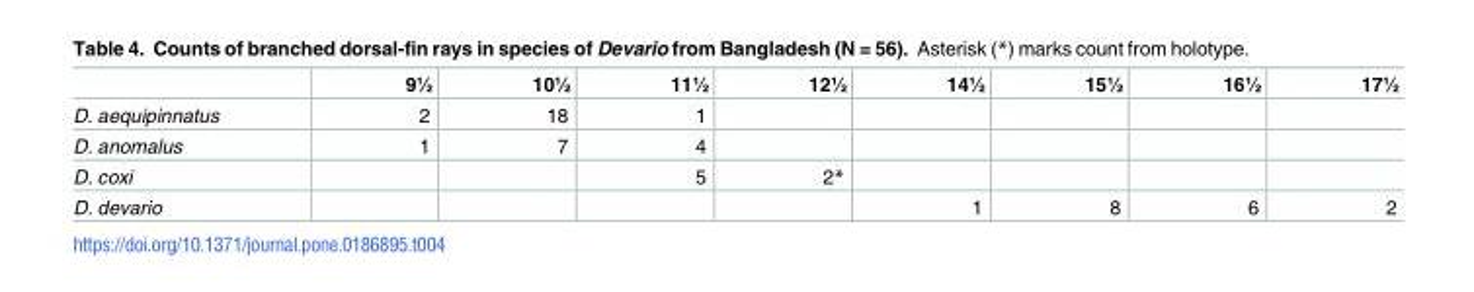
<table><thead><tr><td></td><td>9½</td><td>10½</td><td>11½</td><td>12½</td><td>14½</td><td>15½</td><td>16½</td><td>17½</td></tr></thead><tbody><tr><td>D. aequipinnatus</td><td>2</td><td>18</td><td>1</td><td></td><td></td><td></td><td></td><td></td></tr><tr><td>D. anomalus</td><td>1</td><td>7</td><td>4</td><td></td><td></td><td></td><td></td><td></td></tr><tr><td>D. coxi</td><td></td><td></td><td>5</td><td>2*</td><td></td><td></td><td></td><td></td></tr><tr><td>D. devario</td><td></td><td></td><td></td><td></td><td>1</td><td>8</td><td>6</td><td>2</td></tr></tbody></table>